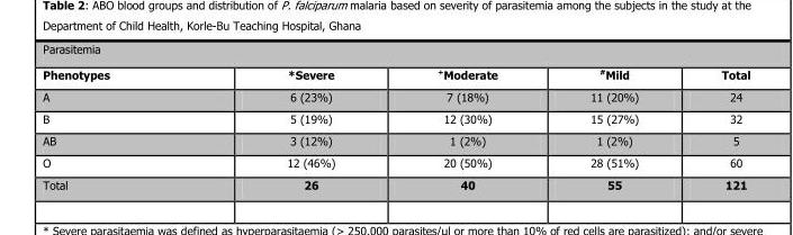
<table><thead><tr><td colspan="5">Parasitemia</td></tr><tr><td>Phenotypes</td><td>*Severe</td><td><sup>+</sup>Moderate</td><td><sup>#</sup>Mild</td><td>Total</td></tr></thead><tbody><tr><td>A</td><td>6 (23%)</td><td>7 (18%)</td><td>11 (20%)</td><td>24</td></tr><tr><td>B</td><td>5 (19%)</td><td>12 (30%)</td><td>15 (27%)</td><td>32</td></tr><tr><td>AB</td><td>3 (12%)</td><td>1 (2%)</td><td>1 (2%)</td><td>5</td></tr><tr><td>O</td><td>12 (46%)</td><td>20 (50%)</td><td>28 (51%)</td><td>60</td></tr><tr><td>Total</td><td>26</td><td>40</td><td>55</td><td>121</td></tr></tbody></table>